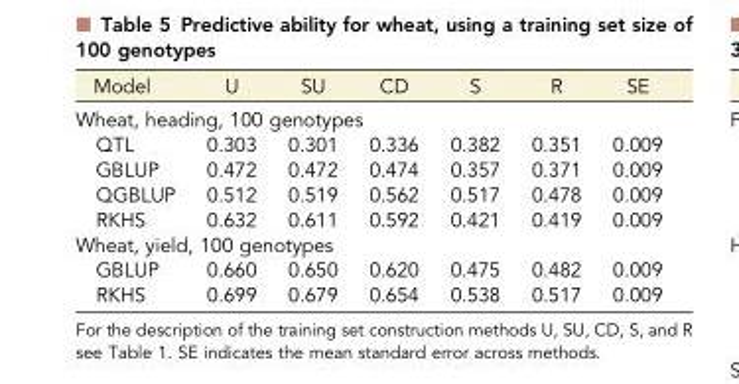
<table><thead><tr><td>Model</td><td>U</td><td>SU</td><td>CD</td><td>S</td><td>R</td><td>SE</td></tr></thead><tbody><tr><td colspan="7">Wheat, heading, 100 genotypes</td></tr><tr><td>QTL</td><td>0.303</td><td>0.301</td><td>0.336</td><td>0.382</td><td>0.351</td><td>0.009</td></tr><tr><td>GBLUP</td><td>0.472</td><td>0.472</td><td>0.474</td><td>0.357</td><td>0.371</td><td>0.009</td></tr><tr><td>QGBLUP</td><td>0.512</td><td>0.519</td><td>0.562</td><td>0.517</td><td>0.478</td><td>0.009</td></tr><tr><td>RKHS</td><td>0.632</td><td>0.611</td><td>0.592</td><td>0.421</td><td>0.419</td><td>0.009</td></tr><tr><td colspan="7">Wheat, yield, 100 genotypes</td></tr><tr><td>GBLUP</td><td>0.660</td><td>0.650</td><td>0.620</td><td>0.475</td><td>0.482</td><td>0.009</td></tr><tr><td>RKHS</td><td>0.699</td><td>0.679</td><td>0.654</td><td>0.538</td><td>0.517</td><td>0.009</td></tr></tbody></table>